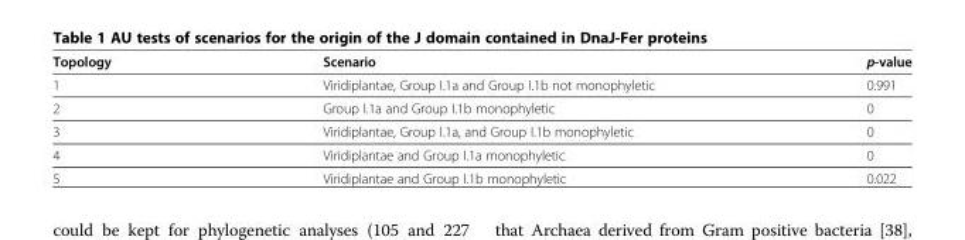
<table><thead><tr><td>Topology</td><td>Scenario</td><td>p-value</td></tr></thead><tbody><tr><td>1</td><td>Viridiplantae, Group I.1a and Group I.1b not monophyletic</td><td>0.991</td></tr><tr><td>2</td><td>Group I.1a and Group I.1b monophyletic</td><td>0</td></tr><tr><td>3</td><td>Viridiplantae, Group I.1a, and Group I.1b monophyletic</td><td>0</td></tr><tr><td>4</td><td>Viridiplantae and Group I.1a monophyletic</td><td>0</td></tr><tr><td>5</td><td>Viridiplantae and Group I.1b monophyletic</td><td>0.022</td></tr></tbody></table>